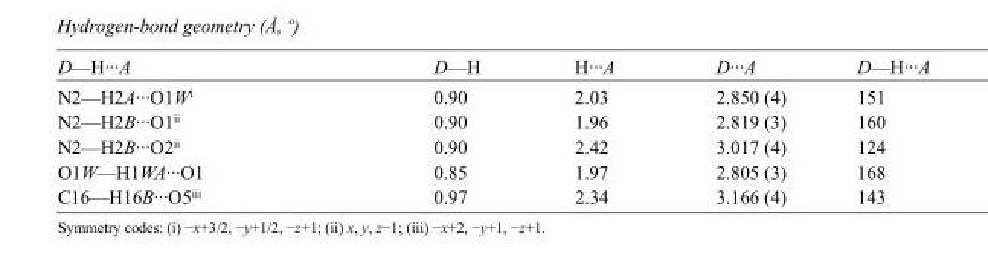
<table><tbody><tr><td>D—H···A</td><td>D—H</td><td>H···A</td><td>D···A</td><td>D—H···A</td></tr><tr><td>N2—H2A···O1W<sup>i</sup></td><td>0.90</td><td>2.03</td><td>2.850 (4)</td><td>151</td></tr><tr><td>N2—H2B···O1<sup>ii</sup></td><td>0.90</td><td>1.96</td><td>2.819 (3)</td><td>160</td></tr><tr><td>N2—H2B···O2<sup>ii</sup></td><td>0.90</td><td>2.42</td><td>3.017 (4)</td><td>124</td></tr><tr><td>O1W—H1WA···O1</td><td>0.85</td><td>1.97</td><td>2.805 (3)</td><td>168</td></tr><tr><td>C16—H16B···O5<sup>iii</sup></td><td>0.97</td><td>2.34</td><td>3.166 (4)</td><td>143</td></tr></tbody></table>